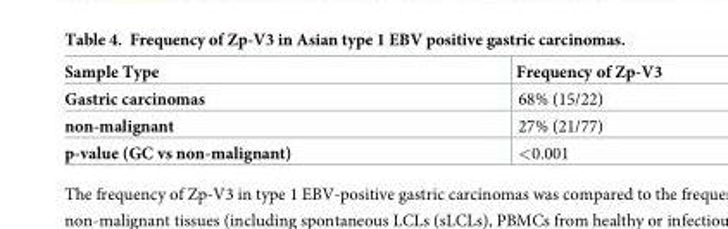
<table><thead><tr><td>Sample Type</td><td>Frequency of Zp-V3</td></tr></thead><tbody><tr><td>Gastric carcinomas</td><td>68% (15/22)</td></tr><tr><td>non-malignant</td><td>27% (21/77)</td></tr><tr><td>p-value (GC vs non-malignant)</td><td>&lt;0.001</td></tr></tbody></table>